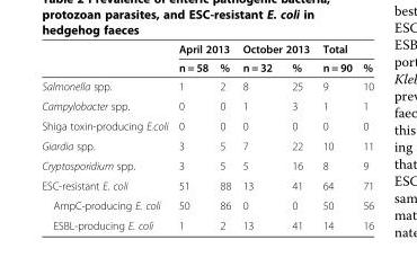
<table><thead><tr><td rowspan="2"></td><td colspan="2">April 2013</td><td colspan="2">October 2013</td><td colspan="2">Total</td></tr><tr><td>n = 58</td><td>%</td><td>n = 32</td><td>%</td><td>n = 90</td><td>%</td></tr></thead><tbody><tr><td>Salmonella spp.</td><td>1</td><td>2</td><td>8</td><td>25</td><td>9</td><td>10</td></tr><tr><td>Campylobacter spp.</td><td>0</td><td>0</td><td>1</td><td>3</td><td>1</td><td>1</td></tr><tr><td>Shiga toxin-producing E.coli</td><td>0</td><td>0</td><td>0</td><td>0</td><td>0</td><td>0</td></tr><tr><td>Giardia spp.</td><td>3</td><td>5</td><td>7</td><td>22</td><td>10</td><td>11</td></tr><tr><td>Cryptosporidium spp.</td><td>3</td><td>5</td><td>5</td><td>16</td><td>8</td><td>9</td></tr><tr><td>ESC-resistant E. coli</td><td>51</td><td>88</td><td>13</td><td>41</td><td>64</td><td>71</td></tr><tr><td>AmpC-producing E. coli</td><td>50</td><td>86</td><td>0</td><td>0</td><td>50</td><td>56</td></tr><tr><td>ESBL-producing E. coli</td><td>1</td><td>2</td><td>13</td><td>41</td><td>14</td><td>16</td></tr></tbody></table>